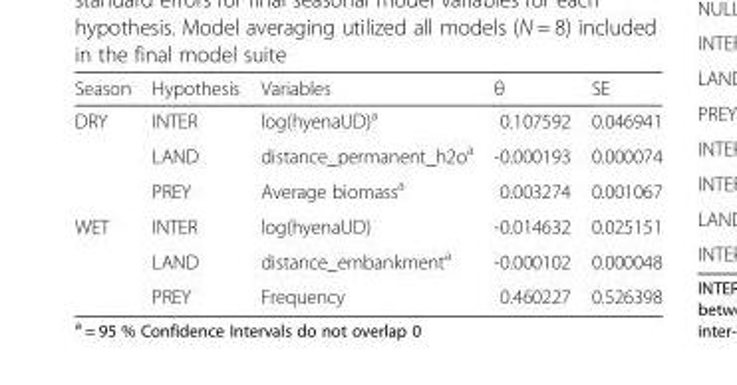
<table><thead><tr><td>Season</td><td>Hypothesis</td><td>Variables</td><td>θ</td><td>SE</td></tr></thead><tbody><tr><td rowspan="3">DRY</td><td>INTER</td><td>log(hyenaUD)<sup>a</sup></td><td>0.107592</td><td>0.046941</td></tr><tr><td>LAND</td><td>distance_permanent_h2o<sup>a</sup></td><td>-0.000193</td><td>0.000074</td></tr><tr><td>PREY</td><td>Average biomass<sup>a</sup></td><td>0.003274</td><td>0.001067</td></tr><tr><td rowspan="3">WET</td><td>INTER</td><td>log(hyenaUD)</td><td>-0.014632</td><td>0.025151</td></tr><tr><td>LAND</td><td>distance_embankment<sup>a</sup></td><td>-0.000102</td><td>0.000048</td></tr><tr><td>PREY</td><td>Frequency</td><td>0.460227</td><td>0.526398</td></tr></tbody></table>